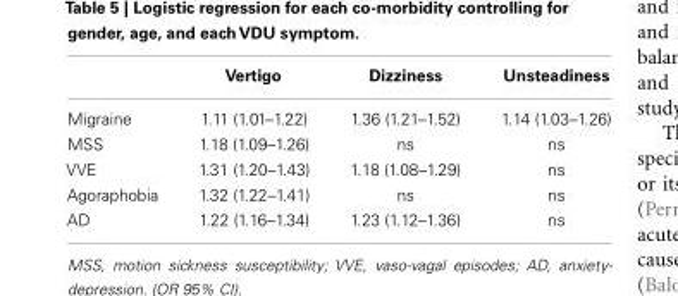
<table><thead><tr><td></td><td>Vertigo</td><td>Dizziness</td><td>Unsteadiness</td></tr></thead><tbody><tr><td>Migraine</td><td>1.11 (1.01–1.22)</td><td>1.36 (1.21–1.52)</td><td>1.14 (1.03–1.26)</td></tr><tr><td>MSS</td><td>1.18 (1.09–1.26)</td><td>ns</td><td>ns</td></tr><tr><td>VVE</td><td>1.31 (1.20–1.43)</td><td>1.18 (1.08–1.29)</td><td>ns</td></tr><tr><td>Agoraphobia</td><td>1.32 (1.22–1.41)</td><td>ns</td><td>ns</td></tr><tr><td>AD</td><td>1.22 (1.16–1.34)</td><td>1.23 (1.12–1.36)</td><td>ns</td></tr></tbody></table>